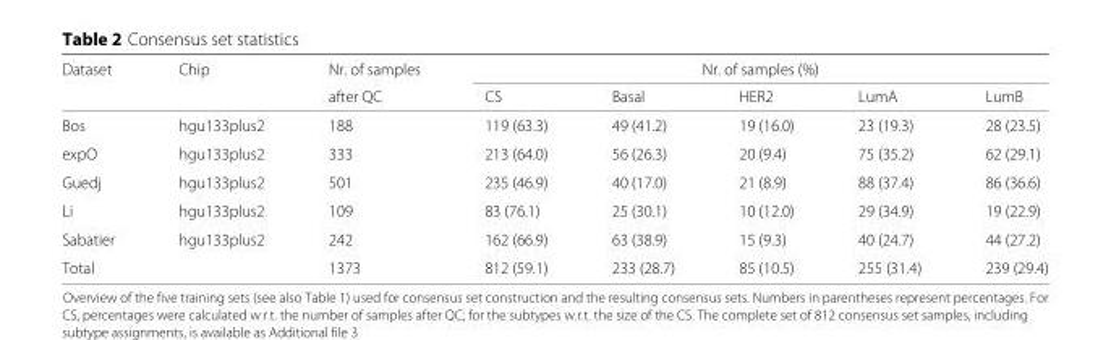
<table><thead><tr><td rowspan="2">Dataset</td><td rowspan="2">Chip</td><td rowspan="2">Nr. of samples after QC</td><td colspan="4">Nr. of samples (%)</td><td rowspan="2">LumB</td></tr><tr><td>CS</td><td>Basal</td><td>HER2</td><td>LumA</td></tr></thead><tbody><tr><td>Bos</td><td>hgu133plus2</td><td>188</td><td>119 (63.3)</td><td>49 (41.2)</td><td>19 (16.0)</td><td>23 (19.3)</td><td>28 (23.5)</td></tr><tr><td>expO</td><td>hgu133plus2</td><td>333</td><td>213 (64.0)</td><td>56 (26.3)</td><td>20 (9.4)</td><td>75 (35.2)</td><td>62 (29.1)</td></tr><tr><td>Guedj</td><td>hgu133plus2</td><td>501</td><td>235 (46.9)</td><td>40 (17.0)</td><td>21 (8.9)</td><td>88 (37.4)</td><td>86 (36.6)</td></tr><tr><td>Li</td><td>hgu133plus2</td><td>109</td><td>83 (76.1)</td><td>25 (30.1)</td><td>10 (12.0)</td><td>29 (34.9)</td><td>19 (22.9)</td></tr><tr><td>Sabatier</td><td>hgu133plus2</td><td>242</td><td>162 (66.9)</td><td>63 (38.9)</td><td>15 (9.3)</td><td>40 (24.7)</td><td>44 (27.2)</td></tr><tr><td>Total</td><td></td><td>1373</td><td>812 (59.1)</td><td>233 (28.7)</td><td>85 (10.5)</td><td>255 (31.4)</td><td>239 (29.4)</td></tr></tbody></table>